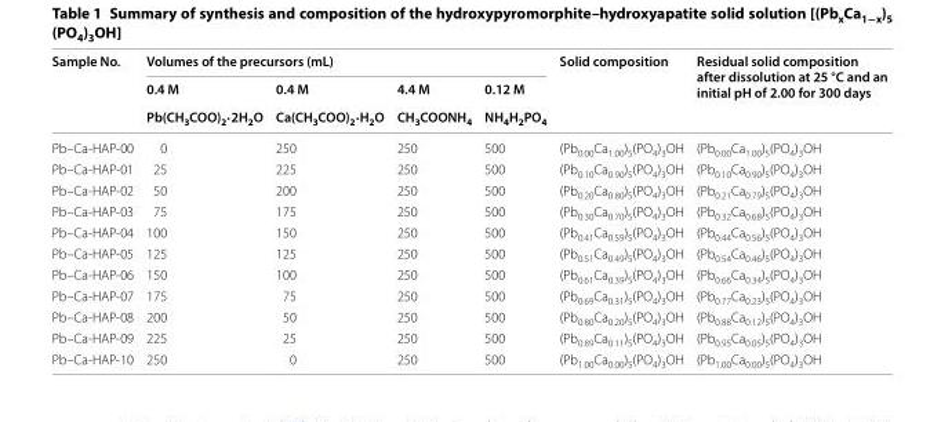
<table><thead><tr><td rowspan="3">Sample No.</td><td colspan="4">Volumes of the precursors (mL)</td><td rowspan="3">Solid composition</td><td rowspan="3">Residual solid composition after dissolution at 25 °C and an initial pH of 2.00 for 300 days</td></tr><tr><td rowspan="2">0.4 M Pb(CH<sub>3</sub>COO)<sub>2</sub>·2H<sub>2</sub>O</td><td rowspan="2">0.4 M Ca(CH<sub>3</sub>COO)<sub>2</sub>·H<sub>2</sub>O</td><td rowspan="2">4.4 M CH<sub>3</sub>COONH<sub>4</sub></td><td rowspan="2">0.12 M NH<sub>4</sub>H<sub>2</sub>PO<sub>4</sub></td></tr><tr></tr></thead><tbody><tr><td>Pb–Ca-HAP-00</td><td>0</td><td>250</td><td>250</td><td>500</td><td>(Pb<sub>0.00</sub>Ca<sub>1.00</sub>)<sub>5</sub>(PO<sub>4</sub>)<sub>3</sub>OH</td><td>(Pb<sub>0.00</sub>Ca<sub>1.00</sub>)<sub>5</sub>(PO<sub>4</sub>)<sub>3</sub>OH</td></tr><tr><td>Pb–Ca-HAP-01</td><td>25</td><td>225</td><td>250</td><td>500</td><td>(Pb<sub>0.10</sub>Ca<sub>0.90</sub>)<sub>5</sub>(PO<sub>4</sub>)<sub>3</sub>OH</td><td>(Pb<sub>0.10</sub>Ca<sub>0.90</sub>)<sub>5</sub>(PO<sub>4</sub>)<sub>3</sub>OH</td></tr><tr><td>Pb–Ca-HAP-02</td><td>50</td><td>200</td><td>250</td><td>500</td><td>(Pb<sub>0.20</sub>Ca<sub>0.80</sub>)<sub>5</sub>(PO<sub>4</sub>)<sub>3</sub>OH</td><td>(Pb<sub>0.21</sub>Ca<sub>0.79</sub>)<sub>5</sub>(PO<sub>4</sub>)<sub>3</sub>OH</td></tr><tr><td>Pb–Ca-HAP-03</td><td>75</td><td>175</td><td>250</td><td>500</td><td>(Pb<sub>0.30</sub>Ca<sub>0.70</sub>)<sub>5</sub>(PO<sub>4</sub>)<sub>3</sub>OH</td><td>(Pb<sub>0.32</sub>Ca<sub>0.68</sub>)<sub>5</sub>(PO<sub>4</sub>)<sub>3</sub>OH</td></tr><tr><td>Pb–Ca-HAP-04</td><td>100</td><td>150</td><td>250</td><td>500</td><td>(Pb<sub>0.41</sub>Ca<sub>0.59</sub>)<sub>5</sub>(PO<sub>4</sub>)<sub>3</sub>OH</td><td>(Pb<sub>0.44</sub>Ca<sub>0.56</sub>)<sub>5</sub>(PO<sub>4</sub>)<sub>3</sub>OH</td></tr><tr><td>Pb–Ca-HAP-05</td><td>125</td><td>125</td><td>250</td><td>500</td><td>(Pb<sub>0.51</sub>Ca<sub>0.49</sub>)<sub>5</sub>(PO<sub>4</sub>)<sub>3</sub>OH</td><td>(Pb<sub>0.54</sub>Ca<sub>0.46</sub>)<sub>5</sub>(PO<sub>4</sub>)<sub>3</sub>OH</td></tr><tr><td>Pb–Ca-HAP-06</td><td>150</td><td>100</td><td>250</td><td>500</td><td>(Pb<sub>0.61</sub>Ca<sub>0.39</sub>)<sub>5</sub>(PO<sub>4</sub>)<sub>3</sub>OH</td><td>(Pb<sub>0.66</sub>Ca<sub>0.34</sub>)<sub>5</sub>(PO<sub>4</sub>)<sub>3</sub>OH</td></tr><tr><td>Pb–Ca-HAP-07</td><td>175</td><td>75</td><td>250</td><td>500</td><td>(Pb<sub>0.69</sub>Ca<sub>0.31</sub>)<sub>5</sub>(PO<sub>4</sub>)<sub>3</sub>OH</td><td>(Pb<sub>0.77</sub>Ca<sub>0.23</sub>)<sub>5</sub>(PO<sub>4</sub>)<sub>3</sub>OH</td></tr><tr><td>Pb–Ca-HAP-08</td><td>200</td><td>50</td><td>250</td><td>500</td><td>(Pb<sub>0.80</sub>Ca<sub>0.20</sub>)<sub>5</sub>(PO<sub>4</sub>)<sub>3</sub>OH</td><td>(Pb<sub>0.88</sub>Ca<sub>0.12</sub>)<sub>5</sub>(PO<sub>4</sub>)<sub>3</sub>OH</td></tr><tr><td>Pb–Ca-HAP-09</td><td>225</td><td>25</td><td>250</td><td>500</td><td>(Pb<sub>0.89</sub>Ca<sub>0.11</sub>)<sub>5</sub>(PO<sub>4</sub>)<sub>3</sub>OH</td><td>(Pb<sub>0.95</sub>Ca<sub>0.05</sub>)<sub>5</sub>(PO<sub>4</sub>)<sub>3</sub>OH</td></tr><tr><td>Pb–Ca-HAP-10</td><td>250</td><td>0</td><td>250</td><td>500</td><td>(Pb<sub>1.00</sub>Ca<sub>0.00</sub>)<sub>5</sub>(PO<sub>4</sub>)<sub>3</sub>OH</td><td>(Pb<sub>1.00</sub>Ca<sub>0.00</sub>)<sub>5</sub>(PO<sub>4</sub>)<sub>3</sub>OH</td></tr></tbody></table>